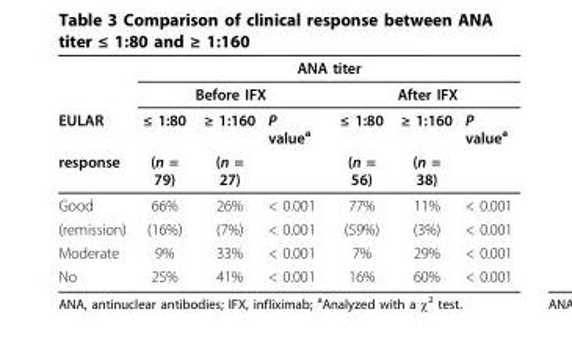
<table><thead><tr><td rowspan="4">EULAR response</td><td colspan="6">ANA titer</td></tr><tr><td colspan="3">Before IFX</td><td colspan="3">After IFX</td></tr><tr><td rowspan="2">≤ 1:80 (n = 79)</td><td rowspan="2">≥ 1:160 (n = 27)</td><td rowspan="2">P value<sup>a</sup></td><td rowspan="2">≤ 1:80 (n = 56)</td><td rowspan="2">≥ 1:160 (n = 38)</td><td rowspan="2">P value<sup>a</sup></td></tr><tr></tr></thead><tbody><tr><td>Good</td><td>66%</td><td>26%</td><td>&lt; 0.001</td><td>77%</td><td>11%</td><td>&lt; 0.001</td></tr><tr><td>(remission)</td><td>(16%)</td><td>(7%)</td><td>&lt; 0.001</td><td>(59%)</td><td>(3%)</td><td>&lt; 0.001</td></tr><tr><td>Moderate</td><td>9%</td><td>33%</td><td>&lt; 0.001</td><td>7%</td><td>29%</td><td>&lt; 0.001</td></tr><tr><td>No</td><td>25%</td><td>41%</td><td>&lt; 0.001</td><td>16%</td><td>60%</td><td>&lt; 0.001</td></tr></tbody></table>